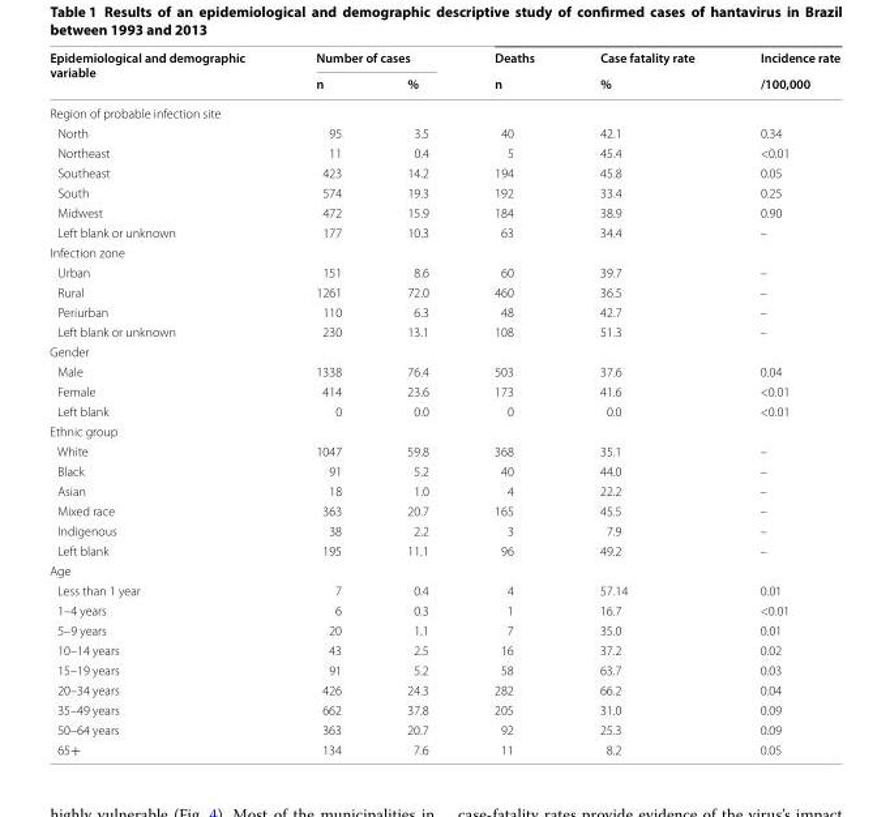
<table><thead><tr><td rowspan="2">Epidemiological and demographic variable</td><td colspan="2">Number of cases</td><td rowspan="2">Deaths n</td><td rowspan="2">Case fatality rate %</td><td rowspan="2">Incidence rate /100,000</td></tr><tr><td>n</td><td>%</td></tr></thead><tbody><tr><td colspan="6">Region of probable infection site</td></tr><tr><td>North</td><td>95</td><td>3.5</td><td>40</td><td>42.1</td><td>0.34</td></tr><tr><td>Northeast</td><td>11</td><td>0.4</td><td>5</td><td>45.4</td><td>&lt;0.01</td></tr><tr><td>Southeast</td><td>423</td><td>14.2</td><td>194</td><td>45.8</td><td>0.05</td></tr><tr><td>South</td><td>574</td><td>19.3</td><td>192</td><td>33.4</td><td>0.25</td></tr><tr><td>Midwest</td><td>472</td><td>15.9</td><td>184</td><td>38.9</td><td>0.90</td></tr><tr><td>Left blank or unknown</td><td>177</td><td>10.3</td><td>63</td><td>34.4</td><td>–</td></tr><tr><td colspan="6">Infection zone</td></tr><tr><td>Urban</td><td>151</td><td>8.6</td><td>60</td><td>39.7</td><td>–</td></tr><tr><td>Rural</td><td>1261</td><td>72.0</td><td>460</td><td>36.5</td><td>–</td></tr><tr><td>Periurban</td><td>110</td><td>6.3</td><td>48</td><td>42.7</td><td>–</td></tr><tr><td>Left blank or unknown</td><td>230</td><td>13.1</td><td>108</td><td>51.3</td><td>–</td></tr><tr><td colspan="6">Gender</td></tr><tr><td>Male</td><td>1338</td><td>76.4</td><td>503</td><td>37.6</td><td>0.04</td></tr><tr><td>Female</td><td>414</td><td>23.6</td><td>173</td><td>41.6</td><td>&lt;0.01</td></tr><tr><td>Left blank</td><td>0</td><td>0.0</td><td>0</td><td>0.0</td><td>&lt;0.01</td></tr><tr><td colspan="6">Ethnic group</td></tr><tr><td>White</td><td>1047</td><td>59.8</td><td>368</td><td>35.1</td><td>–</td></tr><tr><td>Black</td><td>91</td><td>5.2</td><td>40</td><td>44.0</td><td>–</td></tr><tr><td>Asian</td><td>18</td><td>1.0</td><td>4</td><td>22.2</td><td>–</td></tr><tr><td>Mixed race</td><td>363</td><td>20.7</td><td>165</td><td>45.5</td><td>–</td></tr><tr><td>Indigenous</td><td>38</td><td>2.2</td><td>3</td><td>7.9</td><td>–</td></tr><tr><td>Left blank</td><td>195</td><td>11.1</td><td>96</td><td>49.2</td><td>–</td></tr><tr><td colspan="6">Age</td></tr><tr><td>Less than 1 year</td><td>7</td><td>0.4</td><td>4</td><td>57.14</td><td>0.01</td></tr><tr><td>1–4 years</td><td>6</td><td>0.3</td><td>1</td><td>16.7</td><td>&lt;0.01</td></tr><tr><td>5–9 years</td><td>20</td><td>1.1</td><td>7</td><td>35.0</td><td>0.01</td></tr><tr><td>10–14 years</td><td>43</td><td>2.5</td><td>16</td><td>37.2</td><td>0.02</td></tr><tr><td>15–19 years</td><td>91</td><td>5.2</td><td>58</td><td>63.7</td><td>0.03</td></tr><tr><td>20–34 years</td><td>426</td><td>24.3</td><td>282</td><td>66.2</td><td>0.04</td></tr><tr><td>35–49 years</td><td>662</td><td>37.8</td><td>205</td><td>31.0</td><td>0.09</td></tr><tr><td>50–64 years</td><td>363</td><td>20.7</td><td>92</td><td>25.3</td><td>0.09</td></tr><tr><td>65+</td><td>134</td><td>7.6</td><td>11</td><td>8.2</td><td>0.05</td></tr></tbody></table>